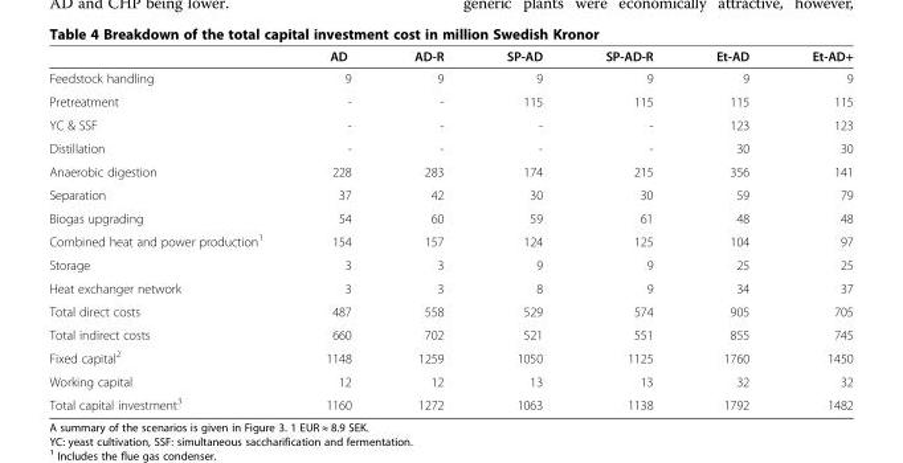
<table><thead><tr><td></td><td>AD</td><td>AD-R</td><td>SP-AD</td><td>SP-AD-R</td><td>Et-AD</td><td>Et-AD+</td></tr></thead><tbody><tr><td>Feedstock handling</td><td>9</td><td>9</td><td>9</td><td>9</td><td>9</td><td>9</td></tr><tr><td>Pretreatment</td><td>-</td><td>-</td><td>115</td><td>115</td><td>115</td><td>115</td></tr><tr><td>YC &amp; SSF</td><td>-</td><td>-</td><td>-</td><td>-</td><td>123</td><td>123</td></tr><tr><td>Distillation</td><td>-</td><td>-</td><td>-</td><td>-</td><td>30</td><td>30</td></tr><tr><td>Anaerobic digestion</td><td>228</td><td>283</td><td>174</td><td>215</td><td>356</td><td>141</td></tr><tr><td>Separation</td><td>37</td><td>42</td><td>30</td><td>30</td><td>59</td><td>79</td></tr><tr><td>Biogas upgrading</td><td>54</td><td>60</td><td>59</td><td>61</td><td>48</td><td>48</td></tr><tr><td>Combined heat and power production<sup>1</sup></td><td>154</td><td>157</td><td>124</td><td>125</td><td>104</td><td>97</td></tr><tr><td>Storage</td><td>3</td><td>3</td><td>9</td><td>9</td><td>25</td><td>25</td></tr><tr><td>Heat exchanger network</td><td>3</td><td>3</td><td>8</td><td>9</td><td>34</td><td>37</td></tr><tr><td>Total direct costs</td><td>487</td><td>558</td><td>529</td><td>574</td><td>905</td><td>705</td></tr><tr><td>Total indirect costs</td><td>660</td><td>702</td><td>521</td><td>551</td><td>855</td><td>745</td></tr><tr><td>Fixed capital<sup>2</sup></td><td>1148</td><td>1259</td><td>1050</td><td>1125</td><td>1760</td><td>1450</td></tr><tr><td>Working capital</td><td>12</td><td>12</td><td>13</td><td>13</td><td>32</td><td>32</td></tr><tr><td>Total capital investment<sup>3</sup></td><td>1160</td><td>1272</td><td>1063</td><td>1138</td><td>1792</td><td>1482</td></tr></tbody></table>